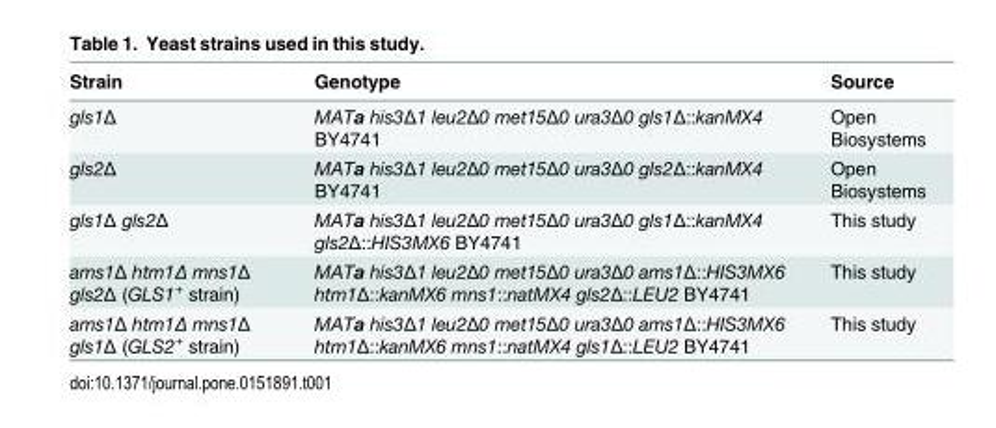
<table><thead><tr><td>Strain</td><td>Genotype</td><td>Source</td></tr></thead><tbody><tr><td>gls1Δ</td><td>MATa his3Δ1 leu2Δ0 met15Δ0 ura3Δ0 gls1Δ::kanMX4 BY4741</td><td>Open Biosystems</td></tr><tr><td>gls2Δ</td><td>MATa his3Δ1 leu2Δ0 met15Δ0 ura3Δ0 gls2Δ::kanMX4 BY4741</td><td>Open Biosystems</td></tr><tr><td>gls1Δ gls2Δ</td><td>MATa his3Δ1 leu2Δ0 met15Δ0 ura3Δ0 gls1Δ::kanMX4 gls2Δ::HIS3MX6 BY4741</td><td>This study</td></tr><tr><td>ams1Δ htm1Δ mns1Δ gls2Δ (GLS1<sup>+</sup> strain)</td><td>MATa his3Δ1 leu2Δ0 met15Δ0 ura3Δ0 ams1Δ::HIS3MX6 htm1Δ::kanMX6 mns1::natMX4 gls2Δ::LEU2 BY4741</td><td>This study</td></tr><tr><td>ams1Δ htm1Δ mns1Δ gls1Δ (GLS2<sup>+</sup> strain)</td><td>MATa his3Δ1 leu2Δ0 met15Δ0 ura3Δ0 ams1Δ::HIS3MX6 htm1Δ::kanMX6 mns1::natMX4 gls1Δ::LEU2 BY4741</td><td>This study</td></tr></tbody></table>